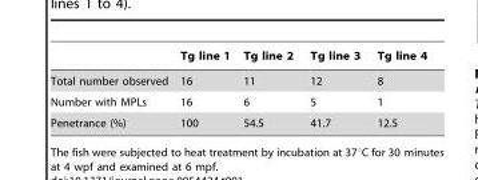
<table><thead><tr><td></td><td>Tg line 1</td><td>Tg line 2</td><td>Tg line 3</td><td>Tg line 4</td></tr></thead><tbody><tr><td>Total number observed</td><td>16</td><td>11</td><td>12</td><td>8</td></tr><tr><td>Number with MPLs</td><td>16</td><td>6</td><td>5</td><td>1</td></tr><tr><td>Penetrance (%)</td><td>100</td><td>54.5</td><td>41.7</td><td>12.5</td></tr></tbody></table>